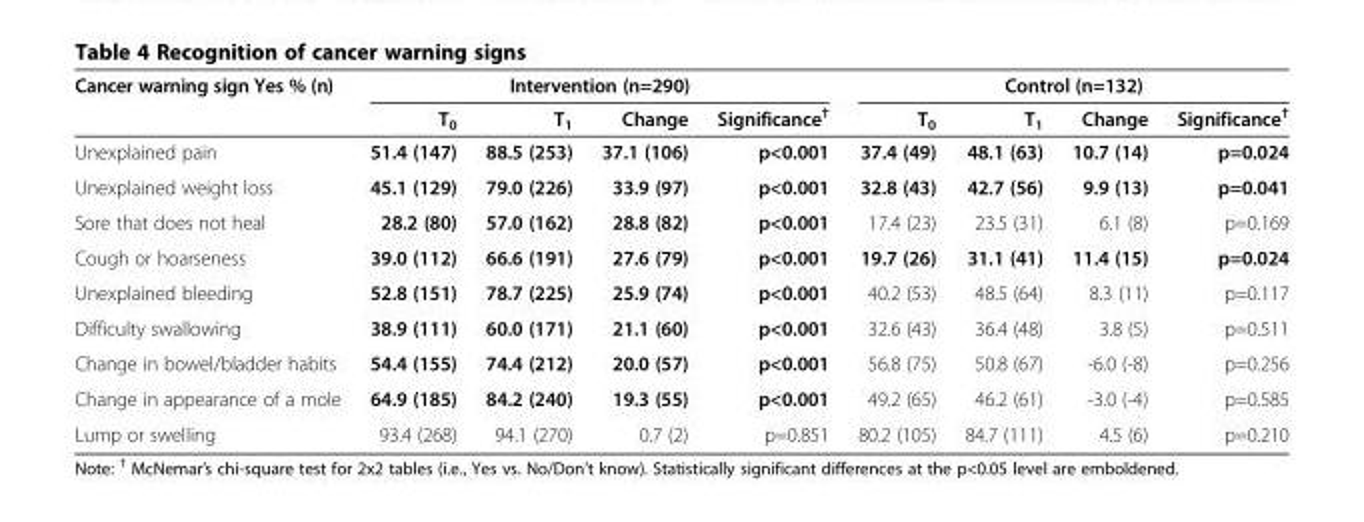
<table><thead><tr><td rowspan="2">Cancer warning sign Yes % (n)</td><td colspan="4">Intervention (n=290)</td><td colspan="4">Control (n=132)</td></tr><tr><td>T<sub>0</sub></td><td>T<sub>1</sub></td><td>Change</td><td>Significance<sup>†</sup></td><td>T<sub>0</sub></td><td>T<sub>1</sub></td><td>Change</td><td>Significance<sup>†</sup></td></tr></thead><tbody><tr><td>Unexplained pain</td><td>51.4 (147)</td><td>88.5 (253)</td><td>37.1 (106)</td><td>p&lt;0.001</td><td>37.4 (49)</td><td>48.1 (63)</td><td>10.7 (14)</td><td>p=0.024</td></tr><tr><td>Unexplained weight loss</td><td>45.1 (129)</td><td>79.0 (226)</td><td>33.9 (97)</td><td>p&lt;0.001</td><td>32.8 (43)</td><td>42.7 (56)</td><td>9.9 (13)</td><td>p=0.041</td></tr><tr><td>Sore that does not heal</td><td>28.2 (80)</td><td>57.0 (162)</td><td>28.8 (82)</td><td>p&lt;0.001</td><td>17.4 (23)</td><td>23.5 (31)</td><td>6.1 (8)</td><td>p=0.169</td></tr><tr><td>Cough or hoarseness</td><td>39.0 (112)</td><td>66.6 (191)</td><td>27.6 (79)</td><td>p&lt;0.001</td><td>19.7 (26)</td><td>31.1 (41)</td><td>11.4 (15)</td><td>p=0.024</td></tr><tr><td>Unexplained bleeding</td><td>52.8 (151)</td><td>78.7 (225)</td><td>25.9 (74)</td><td>p&lt;0.001</td><td>40.2 (53)</td><td>48.5 (64)</td><td>8.3 (11)</td><td>p=0.117</td></tr><tr><td>Difficulty swallowing</td><td>38.9 (111)</td><td>60.0 (171)</td><td>21.1 (60)</td><td>p&lt;0.001</td><td>32.6 (43)</td><td>36.4 (48)</td><td>3.8 (5)</td><td>p=0.511</td></tr><tr><td>Change in bowel/bladder habits</td><td>54.4 (155)</td><td>74.4 (212)</td><td>20.0 (57)</td><td>p&lt;0.001</td><td>56.8 (75)</td><td>50.8 (67)</td><td>-6.0 (-8)</td><td>p=0.256</td></tr><tr><td>Change in appearance of a mole</td><td>64.9 (185)</td><td>84.2 (240)</td><td>19.3 (55)</td><td>p&lt;0.001</td><td>49.2 (65)</td><td>46.2 (61)</td><td>-3.0 (-4)</td><td>p=0.585</td></tr><tr><td>Lump or swelling</td><td>93.4 (268)</td><td>94.1 (270)</td><td>0.7 (2)</td><td>p=0.851</td><td>80.2 (105)</td><td>84.7 (111)</td><td>4.5 (6)</td><td>p=0.210</td></tr></tbody></table>